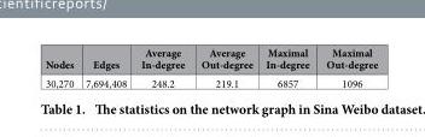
<table><thead><tr><td>Nodes</td><td>Edges</td><td>Average In-degree</td><td>Average Out-degree</td><td>Maximal In-degree</td><td>Maximal Out-degree</td></tr></thead><tbody><tr><td>30,270</td><td>7,694,408</td><td>248.2</td><td>219.1</td><td>6857</td><td>1096</td></tr></tbody></table>